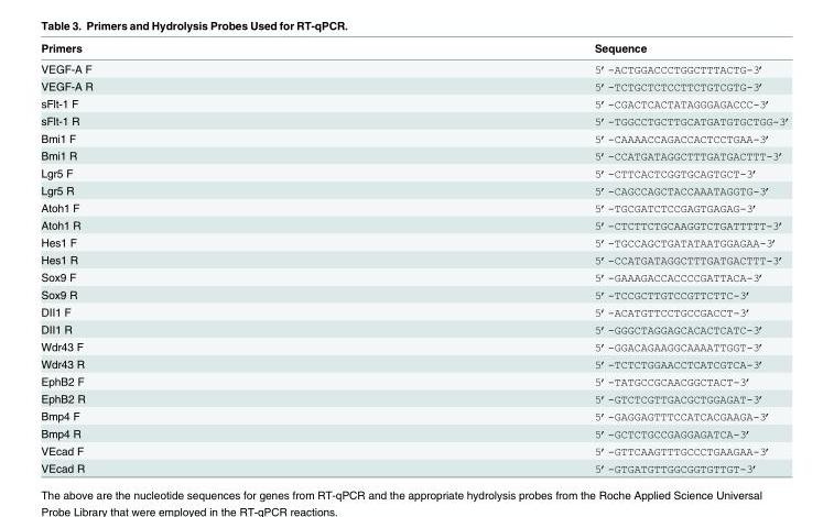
<table><thead><tr><td>Primers</td><td>Sequence</td></tr></thead><tbody><tr><td>VEGF-A F</td><td>5’-ACTGGACCCTGGCTTTACTG-3’</td></tr><tr><td>VEGF-A R</td><td>5’-TCTGCTCTCCTTCTGTCGTG-3’</td></tr><tr><td>sFlt-1 F</td><td>5’-CGACTCACTATAGGGAGACCC-3’</td></tr><tr><td>sFlt-1 R</td><td>5’-TGGCCTGCTTGCATGATGTGCTGG-3’</td></tr><tr><td>Bmi1 F</td><td>5’-CAAAACCAGACCACTCCTGAA-3’</td></tr><tr><td>Bmi1 R</td><td>5’-CCATGATAGGCTTTGATGACTTT-3’</td></tr><tr><td>Lgr5 F</td><td>5’-CTTCACTCGGTGCAGTGCT-3’</td></tr><tr><td>Lgr5 R</td><td>5’-CAGCCAGCTACCAAATAGGTG-3’</td></tr><tr><td>Atoh1 F</td><td>5’-TGCGATCTCCGAGTGAGAG-3’</td></tr><tr><td>Atoh1 R</td><td>5’-CTCTTCTGCAAGGTCTGATTTTT-3’</td></tr><tr><td>Hes1 F</td><td>5’-TGCCAGCTGATATAATGGAGAA-3’</td></tr><tr><td>Hes1 R</td><td>5’-CCATGATAGGCTTTGATGACTTT-3’</td></tr><tr><td>Sox9 F</td><td>5’-GAAAGACCACCCCGATTACA-3’</td></tr><tr><td>Sox9 R</td><td>5’-TCCGCTTGTCCGTTCTTC-3’</td></tr><tr><td>DII1 F</td><td>5’-ACATGTTCCTGCCGACCT-3’</td></tr><tr><td>DII1 R</td><td>5’-GGGCTAGGAGCACACTCATC-3’</td></tr><tr><td>Wdr43 F</td><td>5’-GGACAGAAGGCAAAATTGGT-3’</td></tr><tr><td>Wdr43 R</td><td>5’-TCTCTGGAACCTCATCGTCA-3’</td></tr><tr><td>EphB2 F</td><td>5’-TATGCCGCAACGGCTACT-3’</td></tr><tr><td>EphB2 R</td><td>5’-GTCTCGTTGACGCTGGAGAT-3’</td></tr><tr><td>Bmp4 F</td><td>5’-GAGGAGTTTCCATCACGAAGA-3’</td></tr><tr><td>Bmp4 R</td><td>5’-GCTCTGCCGAGGAGATCA-3’</td></tr><tr><td>VEcad F</td><td>5’-GTTCAAGTTTGCCCTGAAGAA-3’</td></tr><tr><td>VEcad R</td><td>5’-GTGATGTTGGCGGTGTTGT-3’</td></tr></tbody></table>